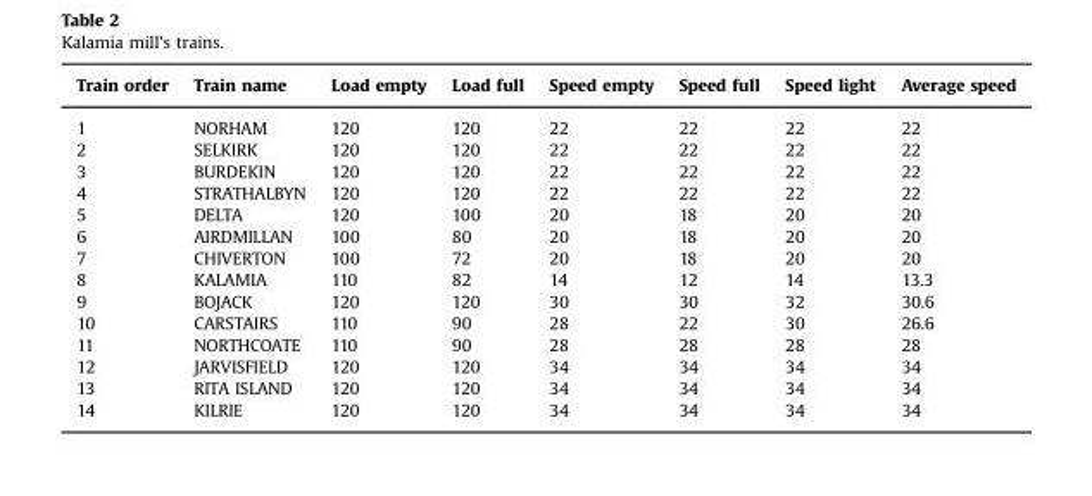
<table><thead><tr><td>Train order</td><td>Train name</td><td>Load empty</td><td>Load full</td><td>Speed empty</td><td>Speed full</td><td>Speed light</td><td>Average speed</td></tr></thead><tbody><tr><td>1</td><td>NORHAM</td><td>120</td><td>120</td><td>22</td><td>22</td><td>22</td><td>22</td></tr><tr><td>2</td><td>SELKIRK</td><td>120</td><td>120</td><td>22</td><td>22</td><td>22</td><td>22</td></tr><tr><td>3</td><td>BURDEKIN</td><td>120</td><td>120</td><td>22</td><td>22</td><td>22</td><td>22</td></tr><tr><td>4</td><td>STRATHALBYN</td><td>120</td><td>120</td><td>22</td><td>22</td><td>22</td><td>22</td></tr><tr><td>5</td><td>DELTA</td><td>120</td><td>100</td><td>20</td><td>18</td><td>20</td><td>20</td></tr><tr><td>6</td><td>AIRDMILLAN</td><td>100</td><td>80</td><td>20</td><td>18</td><td>20</td><td>20</td></tr><tr><td>7</td><td>CHIVERTON</td><td>100</td><td>72</td><td>20</td><td>18</td><td>20</td><td>20</td></tr><tr><td>8</td><td>KALAMIA</td><td>110</td><td>82</td><td>14</td><td>12</td><td>14</td><td>13.3</td></tr><tr><td>9</td><td>BOJACK</td><td>120</td><td>120</td><td>30</td><td>30</td><td>32</td><td>30.6</td></tr><tr><td>10</td><td>CARSTAIRS</td><td>110</td><td>90</td><td>28</td><td>22</td><td>30</td><td>26.6</td></tr><tr><td>11</td><td>NORTHCOATE</td><td>110</td><td>90</td><td>28</td><td>28</td><td>28</td><td>28</td></tr><tr><td>12</td><td>JARVISFIELD</td><td>120</td><td>120</td><td>34</td><td>34</td><td>34</td><td>34</td></tr><tr><td>13</td><td>RITA ISLAND</td><td>120</td><td>120</td><td>34</td><td>34</td><td>34</td><td>34</td></tr><tr><td>14</td><td>KILRIE</td><td>120</td><td>120</td><td>34</td><td>34</td><td>34</td><td>34</td></tr></tbody></table>